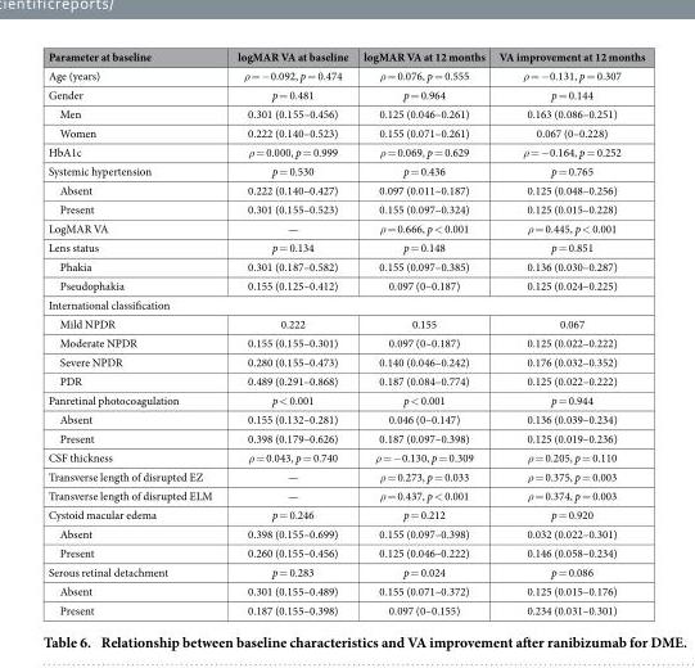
<table><thead><tr><td>Parameter at baseline</td><td>logMAR VA at baseline</td><td>logMAR VA at 12 months</td><td>VA improvement at 12 months</td></tr></thead><tbody><tr><td>Age (years)</td><td>ρ = − 0.092, p = 0.474</td><td>ρ = 0.076, p = 0.555</td><td>ρ = − 0.131, p = 0.307</td></tr><tr><td>Gender</td><td>p = 0.481</td><td>p = 0.964</td><td>p = 0.144</td></tr><tr><td>Men</td><td>0.301 (0.155–0.456)</td><td>0.125 (0.046–0.261)</td><td>0.163 (0.086–0.251)</td></tr><tr><td>Women</td><td>0.222 (0.140–0.523)</td><td>0.155 (0.071–0.261)</td><td>0.067 (0–0.228)</td></tr><tr><td>HbA1c</td><td>ρ = 0.000, p = 0.999</td><td>ρ = 0.069, p = 0.629</td><td>ρ = − 0.164, p = 0.252</td></tr><tr><td>Systemic hypertension</td><td>p = 0.530</td><td>p = 0.436</td><td>p = 0.765</td></tr><tr><td>Absent</td><td>0.222 (0.140–0.427)</td><td>0.097 (0.011–0.187)</td><td>0.125 (0.048–0.256)</td></tr><tr><td>Present</td><td>0.301 (0.155–0.523)</td><td>0.155 (0.097–0.324)</td><td>0.125 (0.015–0.228)</td></tr><tr><td>LogMAR VA</td><td>—</td><td>ρ = 0.666, p &lt; 0.001</td><td>ρ = 0.445, p &lt; 0.001</td></tr><tr><td>Lens status</td><td>p = 0.134</td><td>p = 0.148</td><td>p = 0.851</td></tr><tr><td>Phakia</td><td>0.301 (0.187–0.582)</td><td>0.155 (0.097–0.385)</td><td>0.136 (0.030–0.287)</td></tr><tr><td>Pseudophakia</td><td>0.155 (0.125–0.412)</td><td>0.097 (0–0.187)</td><td>0.125 (0.024–0.225)</td></tr><tr><td colspan="4">International classification</td></tr><tr><td>Mild NPDR</td><td>0.222</td><td>0.155</td><td>0.067</td></tr><tr><td>Moderate NPDR</td><td>0.155 (0.155–0.301)</td><td>0.097 (0–0.187)</td><td>0.125 (0.022–0.222)</td></tr><tr><td>Severe NPDR</td><td>0.280 (0.155–0.473)</td><td>0.140 (0.046–0.242)</td><td>0.176 (0.032–0.352)</td></tr><tr><td>PDR</td><td>0.489 (0.291–0.868)</td><td>0.187 (0.084–0.774)</td><td>0.125 (0.022–0.222)</td></tr><tr><td>Panretinal photocoagulation</td><td>p &lt; 0.001</td><td>p &lt; 0.001</td><td>p = 0.944</td></tr><tr><td>Absent</td><td>0.155 (0.132–0.281)</td><td>0.046 (0–0.147)</td><td>0.136 (0.039–0.234)</td></tr><tr><td>Present</td><td>0.398 (0.179–0.626)</td><td>0.187 (0.097–0.398)</td><td>0.125 (0.019–0.236)</td></tr><tr><td>CSF thickness</td><td>ρ = 0.043, p = 0.740</td><td>ρ = − 0.130, p = 0.309</td><td>ρ = 0.205, p = 0.110</td></tr><tr><td>Transverse length of disrupted EZ</td><td>—</td><td>ρ = 0.273, p = 0.033</td><td>ρ = 0.375, p = 0.003</td></tr><tr><td>Transverse length of disrupted ELM</td><td>—</td><td>ρ = 0.437, p &lt; 0.001</td><td>ρ = 0.374, p = 0.003</td></tr><tr><td>Cystoid macular edema</td><td>p = 0.246</td><td>p = 0.212</td><td>p = 0.920</td></tr><tr><td>Absent</td><td>0.398 (0.155–0.699)</td><td>0.155 (0.097–0.398)</td><td>0.032 (0.022–0.301)</td></tr><tr><td>Present</td><td>0.260 (0.155–0.456)</td><td>0.125 (0.046–0.222)</td><td>0.146 (0.058–0.234)</td></tr><tr><td>Serous retinal detachment</td><td>p = 0.283</td><td>p = 0.024</td><td>p = 0.086</td></tr><tr><td>Absent</td><td>0.301 (0.155–0.489)</td><td>0.155 (0.071–0.372)</td><td>0.125 (0.015–0.176)</td></tr><tr><td>Present</td><td>0.187 (0.155–0.398)</td><td>0.097 (0–0.155)</td><td>0.234 (0.031–0.301)</td></tr></tbody></table>